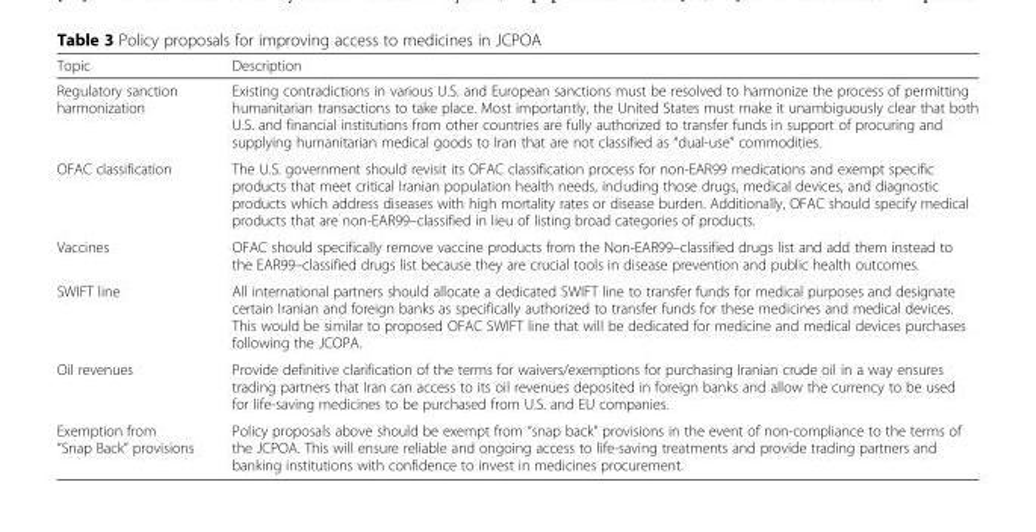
<table><thead><tr><td>Topic</td><td>Description</td></tr></thead><tbody><tr><td>Regulatory sanction harmonization</td><td>Existing contradictions in various U.S. and European sanctions must be resolved to harmonize the process of permitting humanitarian transactions to take place. Most importantly, the United States must make it unambiguously clear that both U.S. and financial institutions from other countries are fully authorized to transfer funds in support of procuring and supplying humanitarian medical goods to Iran that are not classified as “dual-use” commodities.</td></tr><tr><td>OFAC classification</td><td>The U.S. government should revisit its OFAC classification process for non-EAR99 medications and exempt specific products that meet critical Iranian population health needs, including those drugs, medical devices, and diagnostic products which address diseases with high mortality rates or disease burden. Additionally, OFAC should specify medical products that are non-EAR99–classified in lieu of listing broad categories of products.</td></tr><tr><td>Vaccines</td><td>OFAC should specifically remove vaccine products from the Non-EAR99–classified drugs list and add them instead to the EAR99–classified drugs list because they are crucial tools in disease prevention and public health outcomes.</td></tr><tr><td>SWIFT line</td><td>All international partners should allocate a dedicated SWIFT line to transfer funds for medical purposes and designate certain Iranian and foreign banks as specifically authorized to transfer funds for these medicines and medical devices. This would be similar to proposed OFAC SWIFT line that will be dedicated for medicine and medical devices purchases following the JCOPA.</td></tr><tr><td>Oil revenues</td><td>Provide definitive clarification of the terms for waivers/exemptions for purchasing Iranian crude oil in a way ensures trading partners that Iran can access to its oil revenues deposited in foreign banks and allow the currency to be used for life-saving medicines to be purchased from U.S. and EU companies.</td></tr><tr><td>Exemption from “Snap Back” provisions</td><td>Policy proposals above should be exempt from “snap back” provisions in the event of non-compliance to the terms of the JCPOA. This will ensure reliable and ongoing access to life-saving treatments and provide trading partners and banking institutions with confidence to invest in medicines procurement.</td></tr></tbody></table>